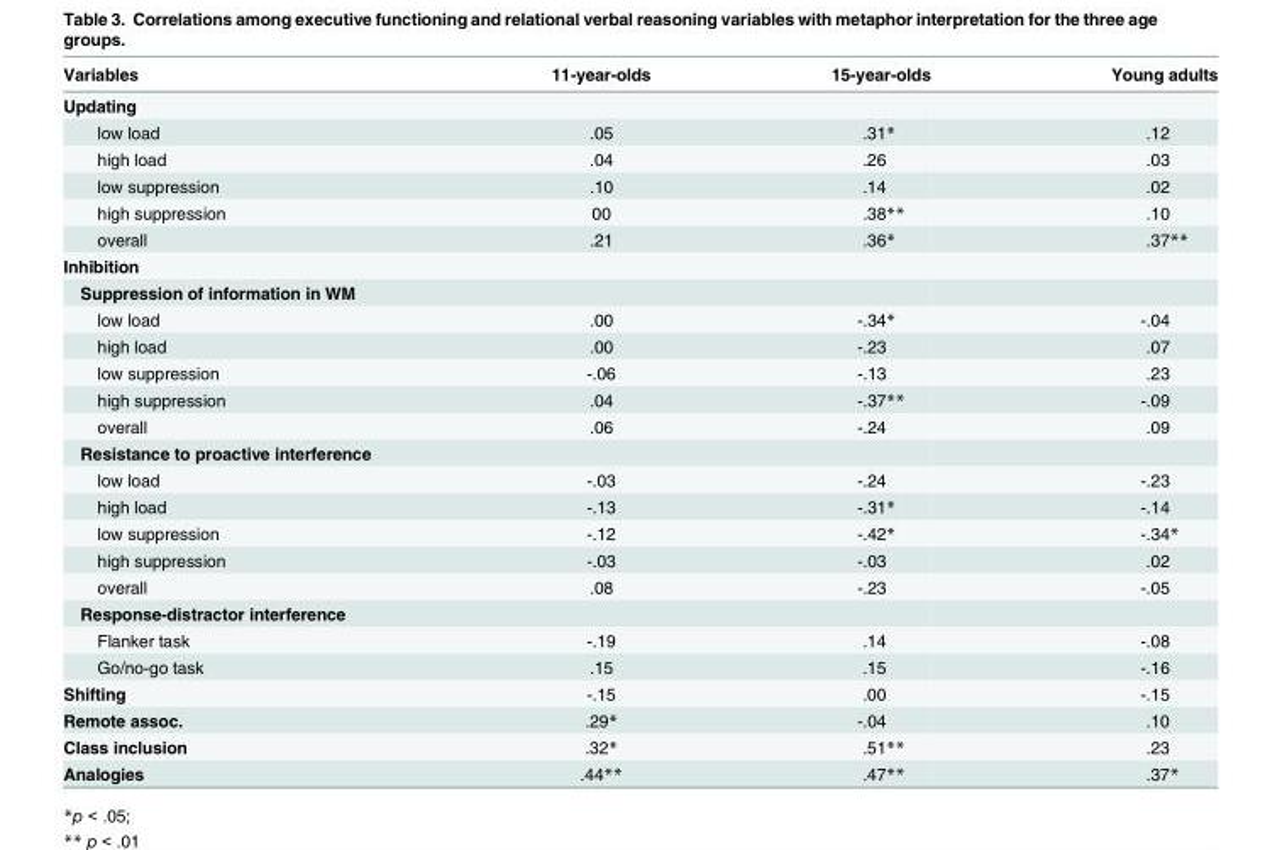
<table><thead><tr><td>Variables</td><td>11-year-olds</td><td>15-year-olds</td><td>Young adults</td></tr></thead><tbody><tr><td colspan="4">Updating</td></tr><tr><td>low load</td><td>.05</td><td>.31*</td><td>.12</td></tr><tr><td>high load</td><td>.04</td><td>.26</td><td>.03</td></tr><tr><td>low suppression</td><td>.10</td><td>.14</td><td>.02</td></tr><tr><td>high suppression</td><td>00</td><td>.38**</td><td>.10</td></tr><tr><td>overall</td><td>.21</td><td>.36*</td><td>.37**</td></tr><tr><td colspan="4">Inhibition</td></tr><tr><td colspan="4">Suppression of information in WM</td></tr><tr><td>low load</td><td>.00</td><td>-.34*</td><td>-.04</td></tr><tr><td>high load</td><td>.00</td><td>-.23</td><td>.07</td></tr><tr><td>low suppression</td><td>-.06</td><td>-.13</td><td>.23</td></tr><tr><td>high suppression</td><td>.04</td><td>-.37**</td><td>-.09</td></tr><tr><td>overall</td><td>.06</td><td>-.24</td><td>.09</td></tr><tr><td colspan="4">Resistance to proactive interference</td></tr><tr><td>low load</td><td>-.03</td><td>-.24</td><td>-.23</td></tr><tr><td>high load</td><td>-.13</td><td>-.31*</td><td>-.14</td></tr><tr><td>low suppression</td><td>-.12</td><td>-.42*</td><td>-.34*</td></tr><tr><td>high suppression</td><td>-.03</td><td>-.03</td><td>.02</td></tr><tr><td>overall</td><td>.08</td><td>-.23</td><td>-.05</td></tr><tr><td colspan="4">Response-distractor interference</td></tr><tr><td>Flanker task</td><td>-.19</td><td>.14</td><td>-.08</td></tr><tr><td>Go/no-go task</td><td>.15</td><td>.15</td><td>-.16</td></tr><tr><td>Shifting</td><td>-.15</td><td>.00</td><td>-.15</td></tr><tr><td>Remote assoc.</td><td>.29*</td><td>-.04</td><td>.10</td></tr><tr><td>Class inclusion</td><td>.32*</td><td>.51**</td><td>.23</td></tr><tr><td>Analogies</td><td>.44**</td><td>.47**</td><td>.37*</td></tr></tbody></table>